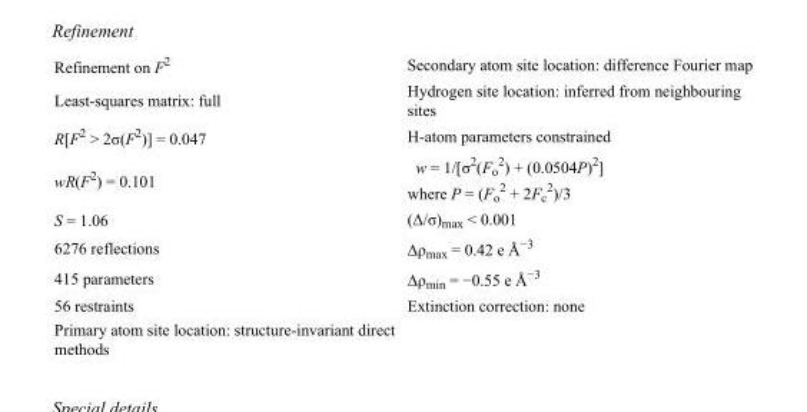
<table><tbody><tr><td>Refinement on F<sup>2</sup></td><td>Secondary atom site location: difference Fourier map</td></tr><tr><td>Least-squares matrix: full</td><td>Hydrogen site location: inferred from neighbouring sites</td></tr><tr><td>R[F<sup>2</sup> &gt; 2σ(F<sup>2</sup>)] = 0.047</td><td>H-atom parameters constrained</td></tr><tr><td>wR(F<sup>2</sup>) = 0.101</td><td>w = 1/[σ<sup>2</sup>(F<sub>o</sub> <sup>2</sup>) + (0.0504P)<sup>2</sup>] where P = (F<sub>o</sub> <sup>2</sup> + 2F<sub>c</sub> <sup>2</sup>)/3</td></tr><tr><td>S = 1.06</td><td>(Δ/σ)<sub>max</sub> &lt; 0.001</td></tr><tr><td>6276 reflections</td><td>Δρ<sub>max</sub> = 0.42 e Å<sup>−3</sup></td></tr><tr><td>415 parameters</td><td>Δρ<sub>min</sub> = −0.55 e Å<sup>−3</sup></td></tr><tr><td>56 restraints</td><td>Extinction correction: none</td></tr><tr><td>Primary atom site location: structure-invariant direct methods</td><td></td></tr></tbody></table>